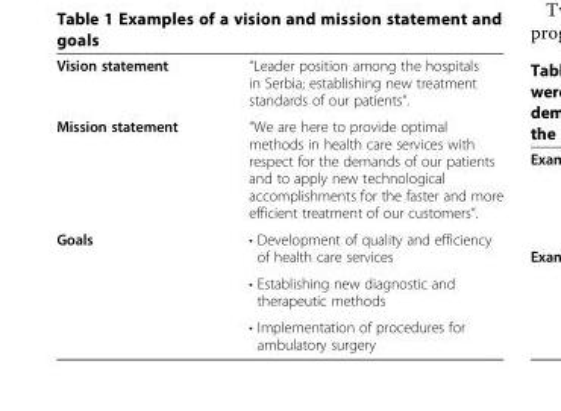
<table><tbody><tr><td>Vision statement</td><td>“Leader position among the hospitals in Serbia; establishing new treatment standards of our patients“.</td></tr><tr><td>Mission statement</td><td>“We are here to provide optimal methods in health care services with respect for the demands of our patients and to apply new technological accomplishments for the faster and more efficient treatment of our customers“.</td></tr><tr><td rowspan="3">Goals</td><td>• Development of quality and efficiency of health care services</td></tr><tr><td>• Establishing new diagnostic and therapeutic methods</td></tr><tr><td>• Implementation of procedures for ambulatory surgery</td></tr></tbody></table>